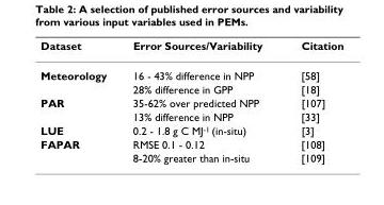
<table><thead><tr><td>Dataset</td><td>Error Sources/Variability</td><td>Citation</td></tr></thead><tbody><tr><td rowspan="2">Meteorology</td><td>16 - 43% difference in NPP</td><td>[58]</td></tr><tr><td>28% difference in GPP</td><td>[18]</td></tr><tr><td rowspan="2">PAR</td><td>35-62% over predicted NPP</td><td>[107]</td></tr><tr><td>13% difference in NPP</td><td>[33]</td></tr><tr><td>LUE</td><td>0.2 - 1.8 g C MJ<sup>-1</sup> (in-situ)</td><td>[3]</td></tr><tr><td rowspan="2">FAPAR</td><td>RMSE 0.1 - 0.12</td><td>[108]</td></tr><tr><td>8-20% greater than in-situ</td><td>[109]</td></tr></tbody></table>